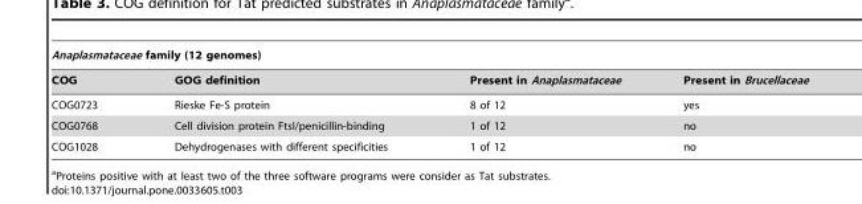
<table><thead><tr><td colspan="4">Anaplasmataceae family (12 genomes)</td></tr><tr><td>COG</td><td>GOG definition</td><td>Present in Anaplasmataceae</td><td>Present in Brucellaceae</td></tr></thead><tbody><tr><td>COG0723</td><td>Rieske Fe-S protein</td><td>8 of 12</td><td>yes</td></tr><tr><td>COG0768</td><td>Cell division protein FtsI/penicillin-binding</td><td>1 of 12</td><td>no</td></tr><tr><td>COG1028</td><td>Dehydrogenases with different specificities</td><td>1 of 12</td><td>no</td></tr></tbody></table>